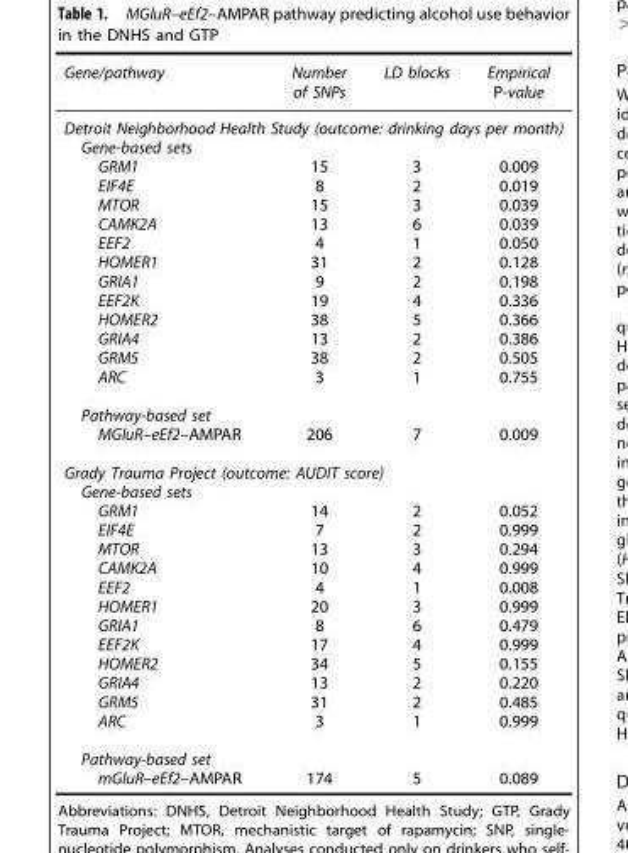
<table><thead><tr><td>Gene/pathway</td><td>Number of SNPs</td><td>LD blocks</td><td>Empirical P-value</td></tr></thead><tbody><tr><td colspan="4">Detroit Neighborhood Health Study (outcome: drinking days per month)</td></tr><tr><td colspan="4">Gene-based sets</td></tr><tr><td>GRM1</td><td>15</td><td>3</td><td>0.009</td></tr><tr><td>EIF4E</td><td>8</td><td>2</td><td>0.019</td></tr><tr><td>MTOR</td><td>15</td><td>3</td><td>0.039</td></tr><tr><td>CAMK2A</td><td>13</td><td>6</td><td>0.039</td></tr><tr><td>EEF2</td><td>4</td><td>1</td><td>0.050</td></tr><tr><td>HOMER1</td><td>31</td><td>2</td><td>0.128</td></tr><tr><td>GRIA1</td><td>9</td><td>2</td><td>0.198</td></tr><tr><td>EEF2K</td><td>19</td><td>4</td><td>0.336</td></tr><tr><td>HOMER2</td><td>38</td><td>5</td><td>0.366</td></tr><tr><td>GRIA4</td><td>13</td><td>2</td><td>0.386</td></tr><tr><td>GRM5</td><td>38</td><td>2</td><td>0.505</td></tr><tr><td>ARC</td><td>3</td><td>1</td><td>0.755</td></tr><tr><td colspan="4">Pathway-based set</td></tr><tr><td>MGluR–eEf2–AMPAR</td><td>206</td><td>7</td><td>0.009</td></tr><tr><td colspan="4">Grady Trauma Project (outcome: AUDIT score)</td></tr><tr><td colspan="4">Gene-based sets</td></tr><tr><td>GRM1</td><td>14</td><td>2</td><td>0.052</td></tr><tr><td>EIF4E</td><td>7</td><td>2</td><td>0.999</td></tr><tr><td>MTOR</td><td>13</td><td>3</td><td>0.294</td></tr><tr><td>CAMK2A</td><td>10</td><td>4</td><td>0.999</td></tr><tr><td>EEF2</td><td>4</td><td>1</td><td>0.008</td></tr><tr><td>HOMER1</td><td>20</td><td>3</td><td>0.999</td></tr><tr><td>GRIA1</td><td>8</td><td>6</td><td>0.479</td></tr><tr><td>EEF2K</td><td>17</td><td>4</td><td>0.999</td></tr><tr><td>HOMER2</td><td>34</td><td>5</td><td>0.155</td></tr><tr><td>GRIA4</td><td>13</td><td>2</td><td>0.220</td></tr><tr><td>GRM5</td><td>31</td><td>2</td><td>0.485</td></tr><tr><td>ARC</td><td>3</td><td>1</td><td>0.999</td></tr><tr><td colspan="4">Pathway-based set</td></tr><tr><td>mGluR–eEf2–AMPAR</td><td>174</td><td>5</td><td>0.089</td></tr></tbody></table>